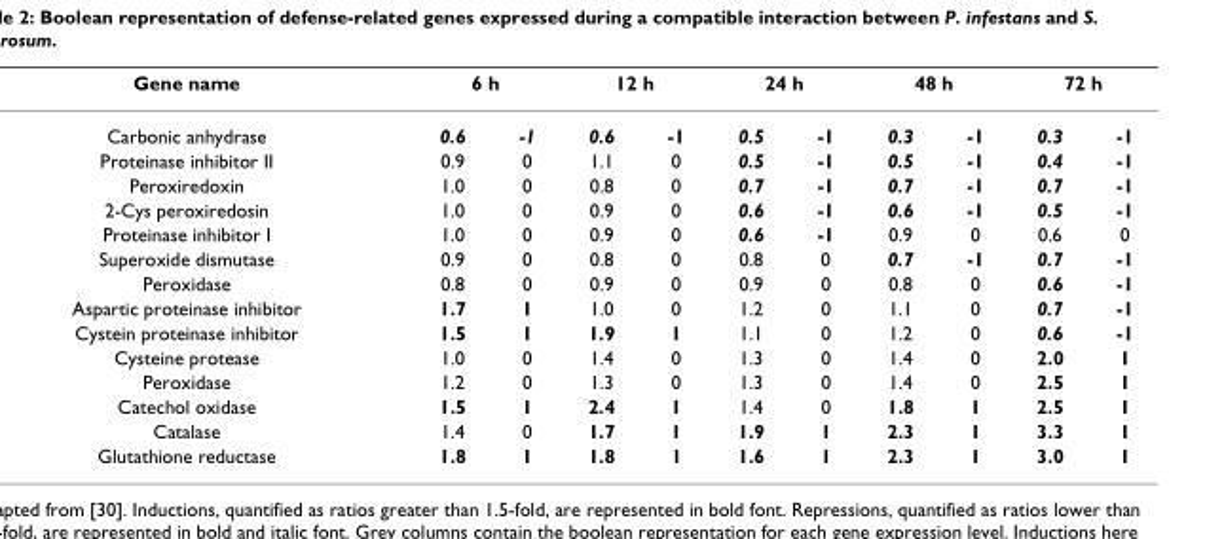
<table><thead><tr><td rowspan="2">Gene name Carbonic anhydrase</td><td colspan="2">6 h</td><td colspan="2">12 h</td><td colspan="2">24 h</td><td colspan="2">48 h</td><td colspan="2">72 h</td></tr><tr><td>0.6</td><td>-1</td><td>0.6</td><td>-1</td><td>0.5</td><td>-1</td><td>0.3</td><td>-1</td><td>0.3</td><td>-1</td></tr></thead><tbody><tr><td>Proteinase inhibitor II</td><td>0.9</td><td>0</td><td>1.1</td><td>0</td><td>0.5</td><td>-1</td><td>0.5</td><td>-1</td><td>0.4</td><td>-1</td></tr><tr><td>Peroxiredoxin</td><td>1.0</td><td>0</td><td>0.8</td><td>0</td><td>0.7</td><td>-1</td><td>0.7</td><td>-1</td><td>0.7</td><td>-1</td></tr><tr><td>2-Cys peroxiredosin</td><td>1.0</td><td>0</td><td>0.9</td><td>0</td><td>0.6</td><td>-1</td><td>0.6</td><td>-1</td><td>0.5</td><td>-1</td></tr><tr><td>Proteinase inhibitor I</td><td>1.0</td><td>0</td><td>0.9</td><td>0</td><td>0.6</td><td>-1</td><td>0.9</td><td>0</td><td>0.6</td><td>0</td></tr><tr><td>Superoxide dismutase</td><td>0.9</td><td>0</td><td>0.8</td><td>0</td><td>0.8</td><td>0</td><td>0.7</td><td>-1</td><td>0.7</td><td>-1</td></tr><tr><td>Peroxidase</td><td>0.8</td><td>0</td><td>0.9</td><td>0</td><td>0.9</td><td>0</td><td>0.8</td><td>0</td><td>0.6</td><td>-1</td></tr><tr><td>Aspartic proteinase inhibitor</td><td>1.7</td><td>1</td><td>1.0</td><td>0</td><td>1.2</td><td>0</td><td>1.1</td><td>0</td><td>0.7</td><td>-1</td></tr><tr><td>Cystein proteinase inhibitor</td><td>1.5</td><td>1</td><td>1.9</td><td>1</td><td>1.1</td><td>0</td><td>1.2</td><td>0</td><td>0.6</td><td>-1</td></tr><tr><td>Cysteine protease</td><td>1.0</td><td>0</td><td>1.4</td><td>0</td><td>1.3</td><td>0</td><td>1.4</td><td>0</td><td>2.0</td><td>1</td></tr><tr><td>Peroxidase</td><td>1.2</td><td>0</td><td>1.3</td><td>0</td><td>1.3</td><td>0</td><td>1.4</td><td>0</td><td>2.5</td><td>1</td></tr><tr><td>Catechol oxidase</td><td>1.5</td><td>1</td><td>2.4</td><td>1</td><td>1.4</td><td>0</td><td>1.8</td><td>1</td><td>2.5</td><td>1</td></tr><tr><td>Catalase</td><td>1.4</td><td>0</td><td>1.7</td><td>1</td><td>1.9</td><td>1</td><td>2.3</td><td>1</td><td>3.3</td><td>1</td></tr><tr><td>Glutathione reductase</td><td>1.8</td><td>1</td><td>1.8</td><td>1</td><td>1.6</td><td>1</td><td>2.3</td><td>1</td><td>3.0</td><td>1</td></tr></tbody></table>